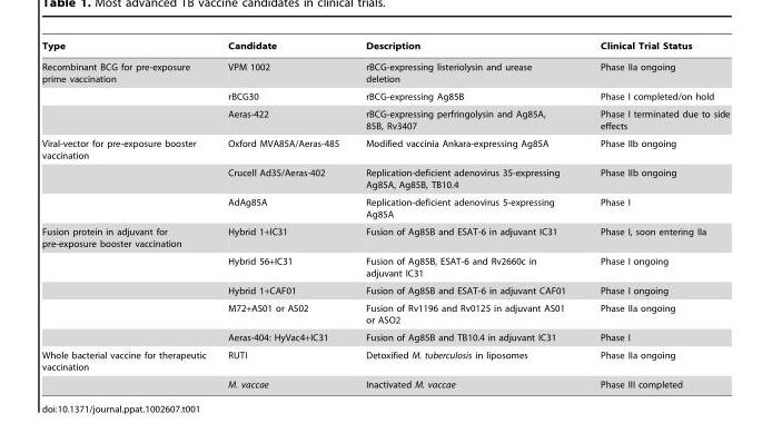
<table><thead><tr><td>Type</td><td>Candidate</td><td>Description</td><td>Clinical Trial Status</td></tr></thead><tbody><tr><td rowspan="3">Recombinant BCG for pre-exposure prime vaccination</td><td>VPM 1002</td><td>rBCG-expressing listeriolysin and urease deletion</td><td>Phase IIa ongoing</td></tr><tr><td>rBCG30</td><td>rBCG-expressing Ag85B</td><td>Phase I completed/on hold</td></tr><tr><td>Aeras-422</td><td>rBCG-expressing perfringolysin and Ag85A, 85B, Rv3407</td><td>Phase I terminated due to side effects</td></tr><tr><td rowspan="3">Viral-vector for pre-exposure booster vaccination</td><td>Oxford MVA85A/Aeras-485</td><td>Modified vaccinia Ankara-expressing Ag85A</td><td>Phase IIb ongoing</td></tr><tr><td>Crucell Ad35/Aeras-402</td><td>Replication-deficient adenovirus 35-expressing Ag85A, Ag85B, TB10.4</td><td>Phase IIb ongoing</td></tr><tr><td>AdAg85A</td><td>Replication-deficient adenovirus 5-expressing Ag85A</td><td>Phase I</td></tr><tr><td rowspan="5">Fusion protein in adjuvant for pre-exposure booster vaccination</td><td>Hybrid 1+IC31</td><td>Fusion of Ag85B and ESAT-6 in adjuvant IC31</td><td>Phase I, soon entering IIa</td></tr><tr><td>Hybrid 56+IC31</td><td>Fusion of Ag85B, ESAT-6 and Rv2660c in adjuvant IC31</td><td>Phase I ongoing</td></tr><tr><td>Hybrid 1+CAF01</td><td>Fusion of Ag85B and ESAT-6 in adjuvant CAF01</td><td>Phase I ongoing</td></tr><tr><td>M72+AS01 or AS02</td><td>Fusion of Rv1196 and Rv0125 in adjuvant AS01 or ASO2</td><td>Phase IIa ongoing</td></tr><tr><td>Aeras-404: HyVac4+IC31</td><td>Fusion of Ag85B and TB10.4 in adjuvant IC31</td><td>Phase I</td></tr><tr><td rowspan="2">Whole bacterial vaccine for therapeutic vaccination</td><td>RUTI</td><td>Detoxified M. tuberculosis in liposomes</td><td>Phase IIa ongoing</td></tr><tr><td>M. vaccae</td><td>Inactivated M. vaccae</td><td>Phase III completed</td></tr></tbody></table>